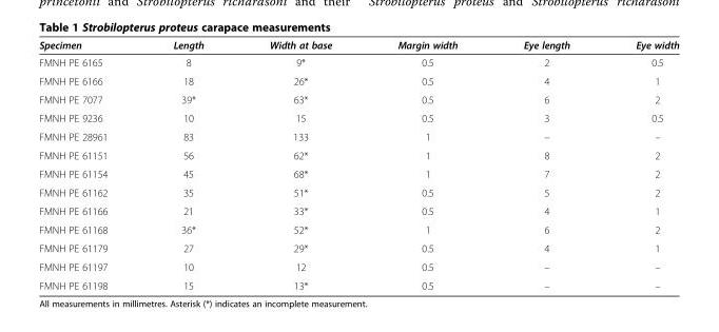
<table><thead><tr><td>Specimen</td><td>Length</td><td>Width at base</td><td>Margin width</td><td>Eye length</td><td>Eye width</td></tr></thead><tbody><tr><td>FMNH PE 6165</td><td>8</td><td>9*</td><td>0.5</td><td>2</td><td>0.5</td></tr><tr><td>FMNH PE 6166</td><td>18</td><td>26*</td><td>0.5</td><td>4</td><td>1</td></tr><tr><td>FMNH PE 7077</td><td>39*</td><td>63*</td><td>0.5</td><td>6</td><td>2</td></tr><tr><td>FMNH PE 9236</td><td>10</td><td>15</td><td>0.5</td><td>3</td><td>0.5</td></tr><tr><td>FMNH PE 28961</td><td>83</td><td>133</td><td>1</td><td>–</td><td>–</td></tr><tr><td>FMNH PE 61151</td><td>56</td><td>62*</td><td>1</td><td>8</td><td>2</td></tr><tr><td>FMNH PE 61154</td><td>45</td><td>68*</td><td>1</td><td>7</td><td>2</td></tr><tr><td>FMNH PE 61162</td><td>35</td><td>51*</td><td>0.5</td><td>5</td><td>2</td></tr><tr><td>FMNH PE 61166</td><td>21</td><td>33*</td><td>0.5</td><td>4</td><td>1</td></tr><tr><td>FMNH PE 61168</td><td>36*</td><td>52*</td><td>1</td><td>6</td><td>2</td></tr><tr><td>FMNH PE 61179</td><td>27</td><td>29*</td><td>0.5</td><td>4</td><td>1</td></tr><tr><td>FMNH PE 61197</td><td>10</td><td>12</td><td>0.5</td><td>–</td><td>–</td></tr><tr><td>FMNH PE 61198</td><td>15</td><td>13*</td><td>0.5</td><td>–</td><td>–</td></tr></tbody></table>